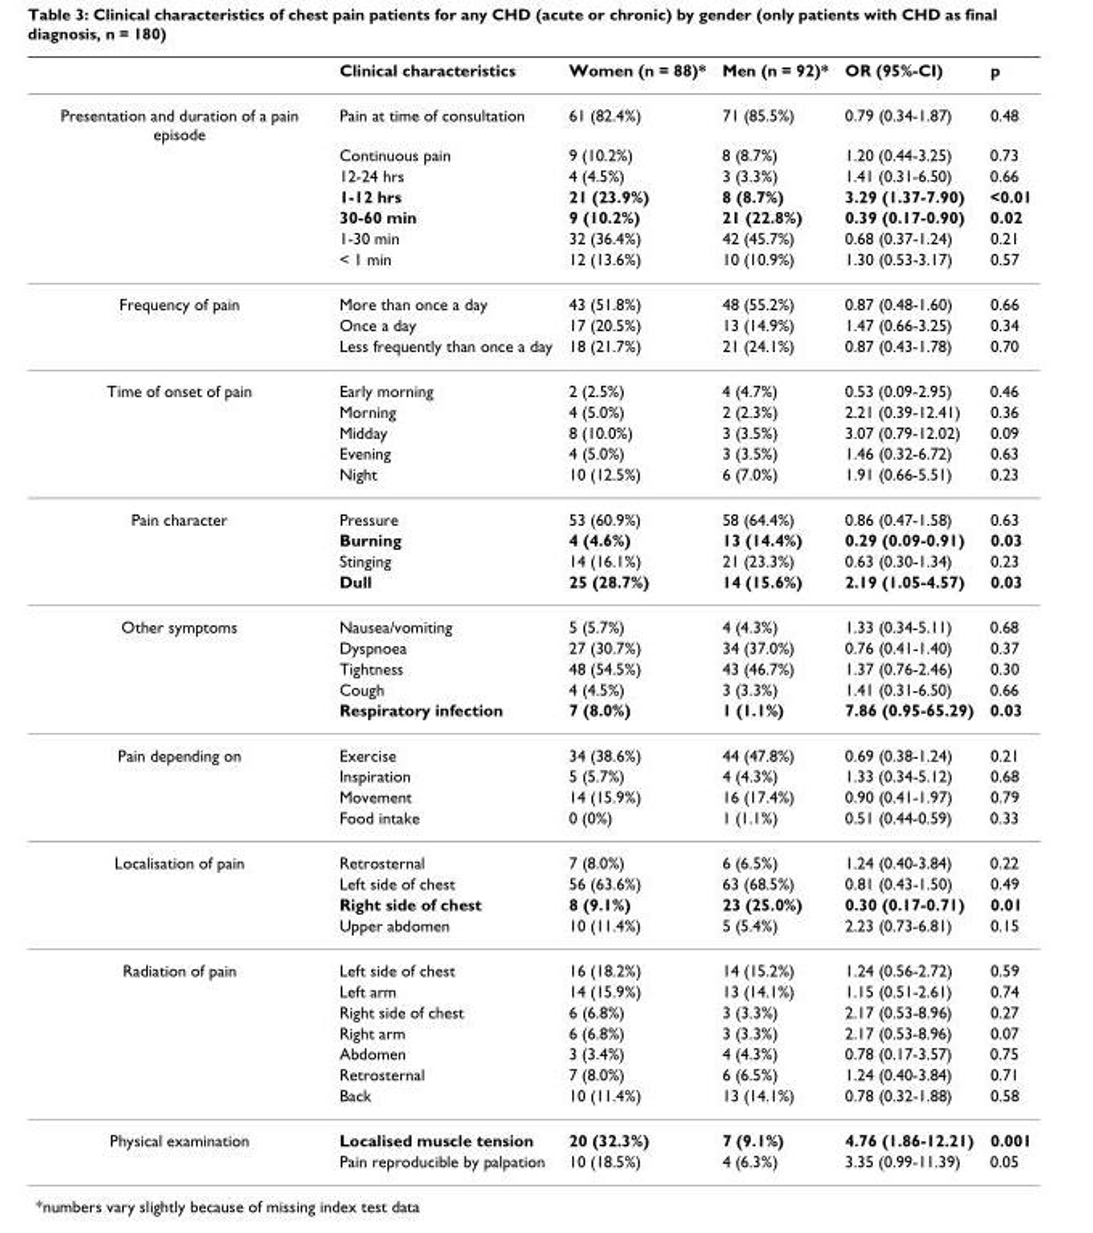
<table><thead><tr><td></td><td>Clinical characteristics</td><td>Women (n = 88)*</td><td>Men (n = 92)*</td><td>OR (95%-CI)</td><td>p</td></tr></thead><tbody><tr><td rowspan="7">Presentation and duration of a pain episode</td><td>Pain at time of consultation</td><td>61 (82.4%)</td><td>71 (85.5%)</td><td>0.79 (0.34-1.87)</td><td>0.48</td></tr><tr><td>Continuous pain</td><td>9 (10.2%)</td><td>8 (8.7%)</td><td>1.20 (0.44-3.25)</td><td>0.73</td></tr><tr><td>12-24 hrs</td><td>4 (4.5%)</td><td>3 (3.3%)</td><td>1.41 (0.31-6.50)</td><td>0.66</td></tr><tr><td>1-12 hrs</td><td>21 (23.9%)</td><td>8 (8.7%)</td><td>3.29 (1.37-7.90)</td><td>&lt;0.01</td></tr><tr><td>30-60 min</td><td>9 (10.2%)</td><td>21 (22.8%)</td><td>0.39 (0.17-0.90)</td><td>0.02</td></tr><tr><td>1-30 min</td><td>32 (36.4%)</td><td>42 (45.7%)</td><td>0.68 (0.37-1.24)</td><td>0.21</td></tr><tr><td>&lt; 1 min</td><td>12 (13.6%)</td><td>10 (10.9%)</td><td>1.30 (0.53-3.17)</td><td>0.57</td></tr><tr><td rowspan="3">Frequency of pain</td><td>More than once a day</td><td>43 (51.8%)</td><td>48 (55.2%)</td><td>0.87 (0.48-1.60)</td><td>0.66</td></tr><tr><td>Once a day</td><td>17 (20.5%)</td><td>13 (14.9%)</td><td>1.47 (0.66-3.25)</td><td>0.34</td></tr><tr><td>Less frequently than once a day</td><td>18 (21.7%)</td><td>21 (24.1%)</td><td>0.87 (0.43-1.78)</td><td>0.70</td></tr><tr><td rowspan="5">Time of onset of pain</td><td>Early morning</td><td>2 (2.5%)</td><td>4 (4.7%)</td><td>0.53 (0.09-2.95)</td><td>0.46</td></tr><tr><td>Morning</td><td>4 (5.0%)</td><td>2 (2.3%)</td><td>2.21 (0.39-12.41)</td><td>0.36</td></tr><tr><td>Midday</td><td>8 (10.0%)</td><td>3 (3.5%)</td><td>3.07 (0.79-12.02)</td><td>0.09</td></tr><tr><td>Evening</td><td>4 (5.0%)</td><td>3 (3.5%)</td><td>1.46 (0.32-6.72)</td><td>0.63</td></tr><tr><td>Night</td><td>10 (12.5%)</td><td>6 (7.0%)</td><td>1.91 (0.66-5.51)</td><td>0.23</td></tr><tr><td rowspan="4">Pain character</td><td>Pressure</td><td>53 (60.9%)</td><td>58 (64.4%)</td><td>0.86 (0.47-1.58)</td><td>0.63</td></tr><tr><td>Burning</td><td>4 (4.6%)</td><td>13 (14.4%)</td><td>0.29 (0.09-0.91)</td><td>0.03</td></tr><tr><td>Stinging</td><td>14 (16.1%)</td><td>21 (23.3%)</td><td>0.63 (0.30-1.34)</td><td>0.23</td></tr><tr><td>Dull</td><td>25 (28.7%)</td><td>14 (15.6%)</td><td>2.19 (1.05-4.57)</td><td>0.03</td></tr><tr><td rowspan="5">Other symptoms</td><td>Nausea/vomiting</td><td>5 (5.7%)</td><td>4 (4.3%)</td><td>1.33 (0.34-5.11)</td><td>0.68</td></tr><tr><td>Dyspnoea</td><td>27 (30.7%)</td><td>34 (37.0%)</td><td>0.76 (0.41-1.40)</td><td>0.37</td></tr><tr><td>Tightness</td><td>48 (54.5%)</td><td>43 (46.7%)</td><td>1.37 (0.76-2.46)</td><td>0.30</td></tr><tr><td>Cough</td><td>4 (4.5%)</td><td>3 (3.3%)</td><td>1.41 (0.31-6.50)</td><td>0.66</td></tr><tr><td>Respiratory infection</td><td>7 (8.0%)</td><td>1 (1.1%)</td><td>7.86 (0.95-65.29)</td><td>0.03</td></tr><tr><td rowspan="4">Pain depending on</td><td>Exercise</td><td>34 (38.6%)</td><td>44 (47.8%)</td><td>0.69 (0.38-1.24)</td><td>0.21</td></tr><tr><td>Inspiration</td><td>5 (5.7%)</td><td>4 (4.3%)</td><td>1.33 (0.34-5.12)</td><td>0.68</td></tr><tr><td>Movement</td><td>14 (15.9%)</td><td>16 (17.4%)</td><td>0.90 (0.41-1.97)</td><td>0.79</td></tr><tr><td>Food intake</td><td>0 (0%)</td><td>1 (1.1%)</td><td>0.51 (0.44-0.59)</td><td>0.33</td></tr><tr><td rowspan="4">Localisation of pain</td><td>Retrosternal</td><td>7 (8.0%)</td><td>6 (6.5%)</td><td>1.24 (0.40-3.84)</td><td>0.22</td></tr><tr><td>Left side of chest</td><td>56 (63.6%)</td><td>63 (68.5%)</td><td>0.81 (0.43-1.50)</td><td>0.49</td></tr><tr><td>Right side of chest</td><td>8 (9.1%)</td><td>23 (25.0%)</td><td>0.30 (0.17-0.71)</td><td>0.01</td></tr><tr><td>Upper abdomen</td><td>10 (11.4%)</td><td>5 (5.4%)</td><td>2.23 (0.73-6.81)</td><td>0.15</td></tr><tr><td rowspan="7">Radiation of pain</td><td>Left side of chest</td><td>16 (18.2%)</td><td>14 (15.2%)</td><td>1.24 (0.56-2.72)</td><td>0.59</td></tr><tr><td>Left arm</td><td>14 (15.9%)</td><td>13 (14.1%)</td><td>1.15 (0.51-2.61)</td><td>0.74</td></tr><tr><td>Right side of chest</td><td>6 (6.8%)</td><td>3 (3.3%)</td><td>2.17 (0.53-8.96)</td><td>0.27</td></tr><tr><td>Right arm</td><td>6 (6.8%)</td><td>3 (3.3%)</td><td>2.17 (0.53-8.96)</td><td>0.07</td></tr><tr><td>Abdomen</td><td>3 (3.4%)</td><td>4 (4.3%)</td><td>0.78 (0.17-3.57)</td><td>0.75</td></tr><tr><td>Retrosternal</td><td>7 (8.0%)</td><td>6 (6.5%)</td><td>1.24 (0.40-3.84)</td><td>0.71</td></tr><tr><td>Back</td><td>10 (11.4%)</td><td>13 (14.1%)</td><td>0.78 (0.32-1.88)</td><td>0.58</td></tr><tr><td rowspan="2">Physical examination</td><td>Localised muscle tension</td><td>20 (32.3%)</td><td>7 (9.1%)</td><td>4.76 (1.86-12.21)</td><td>0.001</td></tr><tr><td>Pain reproducible by palpation</td><td>10 (18.5%)</td><td>4 (6.3%)</td><td>3.35 (0.99-11.39)</td><td>0.05</td></tr></tbody></table>